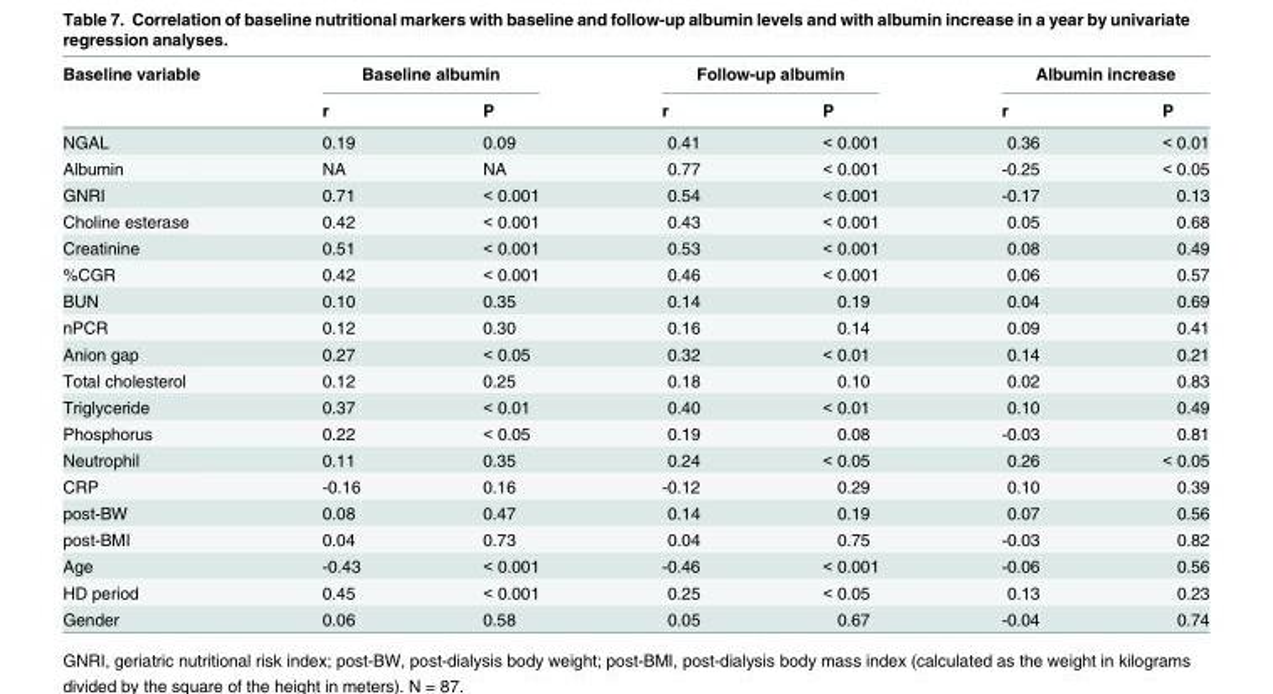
<table><thead><tr><td rowspan="2">Baseline variable</td><td colspan="2">Baseline albumin</td><td colspan="2">Follow-up albumin</td><td colspan="2">Albumin increase</td></tr><tr><td>r</td><td>P</td><td>r</td><td>P</td><td>r</td><td>P</td></tr></thead><tbody><tr><td>NGAL</td><td>0.19</td><td>0.09</td><td>0.41</td><td>&lt; 0.001</td><td>0.36</td><td>&lt; 0.01</td></tr><tr><td>Albumin</td><td>NA</td><td>NA</td><td>0.77</td><td>&lt; 0.001</td><td>-0.25</td><td>&lt; 0.05</td></tr><tr><td>GNRI</td><td>0.71</td><td>&lt; 0.001</td><td>0.54</td><td>&lt; 0.001</td><td>-0.17</td><td>0.13</td></tr><tr><td>Choline esterase</td><td>0.42</td><td>&lt; 0.001</td><td>0.43</td><td>&lt; 0.001</td><td>0.05</td><td>0.68</td></tr><tr><td>Creatinine</td><td>0.51</td><td>&lt; 0.001</td><td>0.53</td><td>&lt; 0.001</td><td>0.08</td><td>0.49</td></tr><tr><td>%CGR</td><td>0.42</td><td>&lt; 0.001</td><td>0.46</td><td>&lt; 0.001</td><td>0.06</td><td>0.57</td></tr><tr><td>BUN</td><td>0.10</td><td>0.35</td><td>0.14</td><td>0.19</td><td>0.04</td><td>0.69</td></tr><tr><td>nPCR</td><td>0.12</td><td>0.30</td><td>0.16</td><td>0.14</td><td>0.09</td><td>0.41</td></tr><tr><td>Anion gap</td><td>0.27</td><td>&lt; 0.05</td><td>0.32</td><td>&lt; 0.01</td><td>0.14</td><td>0.21</td></tr><tr><td>Total cholesterol</td><td>0.12</td><td>0.25</td><td>0.18</td><td>0.10</td><td>0.02</td><td>0.83</td></tr><tr><td>Triglyceride</td><td>0.37</td><td>&lt; 0.01</td><td>0.40</td><td>&lt; 0.01</td><td>0.10</td><td>0.49</td></tr><tr><td>Phosphorus</td><td>0.22</td><td>&lt; 0.05</td><td>0.19</td><td>0.08</td><td>-0.03</td><td>0.81</td></tr><tr><td>Neutrophil</td><td>0.11</td><td>0.35</td><td>0.24</td><td>&lt; 0.05</td><td>0.26</td><td>&lt; 0.05</td></tr><tr><td>CRP</td><td>-0.16</td><td>0.16</td><td>-0.12</td><td>0.29</td><td>0.10</td><td>0.39</td></tr><tr><td>post-BW</td><td>0.08</td><td>0.47</td><td>0.14</td><td>0.19</td><td>0.07</td><td>0.56</td></tr><tr><td>post-BMI</td><td>0.04</td><td>0.73</td><td>0.04</td><td>0.75</td><td>-0.03</td><td>0.82</td></tr><tr><td>Age</td><td>-0.43</td><td>&lt; 0.001</td><td>-0.46</td><td>&lt; 0.001</td><td>-0.06</td><td>0.56</td></tr><tr><td>HD period</td><td>0.45</td><td>&lt; 0.001</td><td>0.25</td><td>&lt; 0.05</td><td>0.13</td><td>0.23</td></tr><tr><td>Gender</td><td>0.06</td><td>0.58</td><td>0.05</td><td>0.67</td><td>-0.04</td><td>0.74</td></tr></tbody></table>